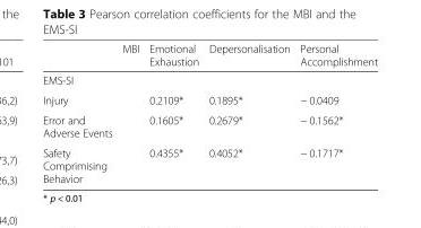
<table><thead><tr><td></td><td>MBI</td><td>Emotional Exhaustion</td><td>Depersonalisation</td><td>Personal Accomplishment</td></tr></thead><tbody><tr><td colspan="5">EMS-SI</td></tr><tr><td>Injury</td><td></td><td>0.2109*</td><td>0.1895*</td><td>− 0.0409</td></tr><tr><td>Error and Adverse Events</td><td></td><td>0.1605*</td><td>0.2679*</td><td>− 0.1562*</td></tr><tr><td>Safety Comprimising Behavior</td><td></td><td>0.4355*</td><td>0.4052*</td><td>− 0.1717*</td></tr></tbody></table>